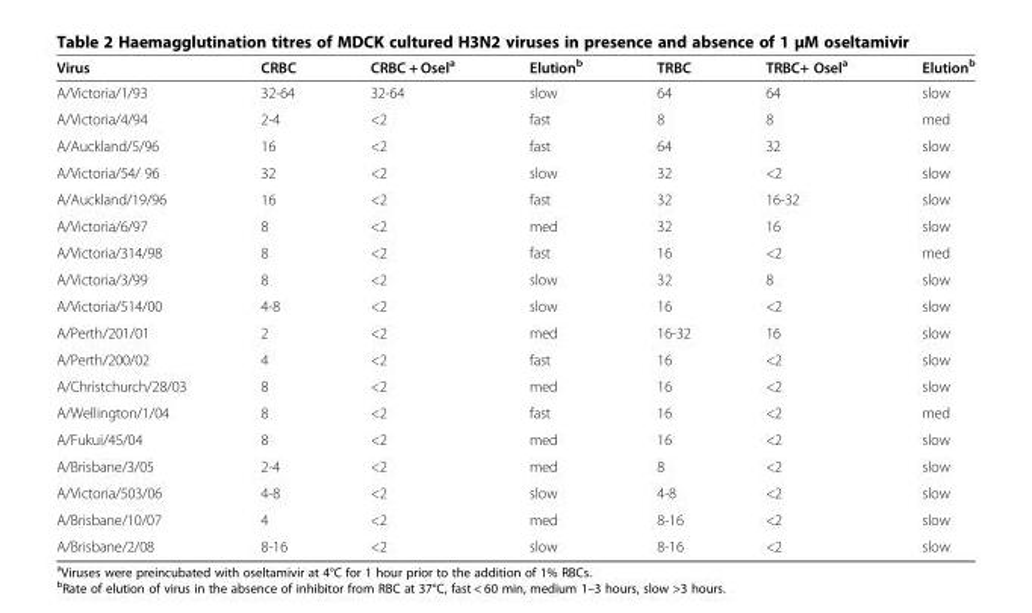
<table><thead><tr><td>Virus</td><td>CRBC</td><td>CRBC + Osel<sup>a</sup></td><td>Elution<sup>b</sup></td><td>TRBC</td><td>TRBC+ Osel<sup>a</sup></td><td>Elution<sup>b</sup></td></tr></thead><tbody><tr><td>A/Victoria/1/93</td><td>32-64</td><td>32-64</td><td>slow</td><td>64</td><td>64</td><td>slow</td></tr><tr><td>A/Victoria/4/94</td><td>2-4</td><td>&lt;2</td><td>fast</td><td>8</td><td>8</td><td>med</td></tr><tr><td>A/Auckland/5/96</td><td>16</td><td>&lt;2</td><td>fast</td><td>64</td><td>32</td><td>slow</td></tr><tr><td>A/Victoria/54/ 96</td><td>32</td><td>&lt;2</td><td>slow</td><td>32</td><td>&lt;2</td><td>slow</td></tr><tr><td>A/Auckland/19/96</td><td>16</td><td>&lt;2</td><td>fast</td><td>32</td><td>16-32</td><td>slow</td></tr><tr><td>A/Victoria/6/97</td><td>8</td><td>&lt;2</td><td>med</td><td>32</td><td>16</td><td>slow</td></tr><tr><td>A/Victoria/314/98</td><td>8</td><td>&lt;2</td><td>fast</td><td>16</td><td>&lt;2</td><td>med</td></tr><tr><td>A/Victoria/3/99</td><td>8</td><td>&lt;2</td><td>slow</td><td>32</td><td>8</td><td>slow</td></tr><tr><td>A/Victoria/514/00</td><td>4-8</td><td>&lt;2</td><td>slow</td><td>16</td><td>&lt;2</td><td>slow</td></tr><tr><td>A/Perth/201/01</td><td>2</td><td>&lt;2</td><td>med</td><td>16-32</td><td>16</td><td>slow</td></tr><tr><td>A/Perth/200/02</td><td>4</td><td>&lt;2</td><td>fast</td><td>16</td><td>&lt;2</td><td>slow</td></tr><tr><td>A/Christchurch/28/03</td><td>8</td><td>&lt;2</td><td>med</td><td>16</td><td>&lt;2</td><td>slow</td></tr><tr><td>A/Wellington/1/04</td><td>8</td><td>&lt;2</td><td>fast</td><td>16</td><td>&lt;2</td><td>med</td></tr><tr><td>A/Fukui/45/04</td><td>8</td><td>&lt;2</td><td>med</td><td>16</td><td>&lt;2</td><td>slow</td></tr><tr><td>A/Brisbane/3/05</td><td>2-4</td><td>&lt;2</td><td>med</td><td>8</td><td>&lt;2</td><td>slow</td></tr><tr><td>A/Victoria/503/06</td><td>4-8</td><td>&lt;2</td><td>slow</td><td>4-8</td><td>&lt;2</td><td>slow</td></tr><tr><td>A/Brisbane/10/07</td><td>4</td><td>&lt;2</td><td>med</td><td>8-16</td><td>&lt;2</td><td>slow</td></tr><tr><td>A/Brisbane/2/08</td><td>8-16</td><td>&lt;2</td><td>slow</td><td>8-16</td><td>&lt;2</td><td>slow</td></tr></tbody></table>